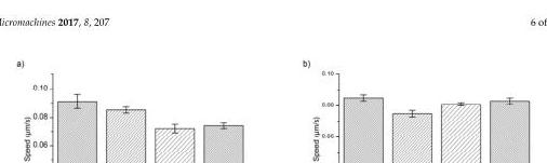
<table><thead><tr><td>Acetic Acid (AA) Concentration</td><td>Bacteria Type</td><td>0 mA</td><td>0.07 mA</td><td>0.125 mA</td><td>0.175 mA</td></tr></thead><tbody><tr><td rowspan="2">0%</td><td>E. coli</td><td>0.74 ± 0.03</td><td>0.90 ± 0.02</td><td>0.82 ± 0.02</td><td>0.83 ± 0.02</td></tr><tr><td>P. aeruginosa</td><td>0.79 ± 0.03</td><td>0.82 ± 0.02</td><td>0.87 ± 0.02</td><td>0.86 ± 0.05</td></tr><tr><td rowspan="2">0.31%</td><td>E. coli</td><td>0.16 ± 0.01</td><td>0.13 ± 0.01</td><td>0.10 ± 0.01</td><td>0.10 ± 0.01</td></tr><tr><td>P. aeruginosa</td><td>0.11 ± 0.01</td><td>0.14 ± 0.01</td><td>0.12 ± 0.01</td><td>0.11 ± 0.01</td></tr></tbody></table>